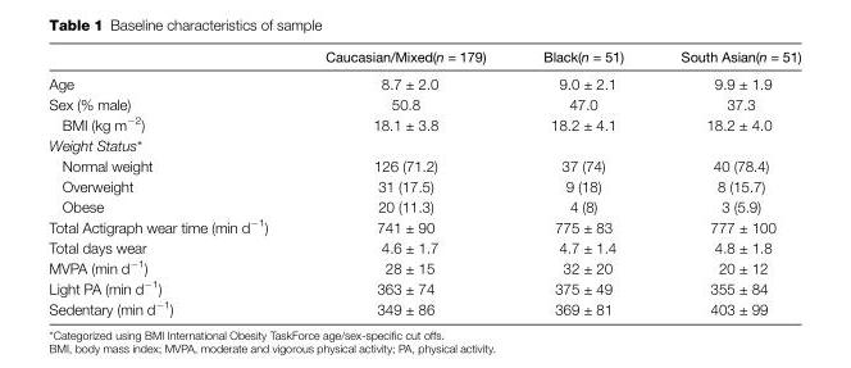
<table><thead><tr><td></td><td>Caucasian/Mixed(n = 179)</td><td>Black(n = 51)</td><td>South Asian(n = 51)</td></tr></thead><tbody><tr><td>Age</td><td>8.7 ± 2.0</td><td>9.0 ± 2.1</td><td>9.9 ± 1.9</td></tr><tr><td>Sex (% male)</td><td>50.8</td><td>47.0</td><td>37.3</td></tr><tr><td>BMI (kg m<sup>−2</sup>)</td><td>18.1 ± 3.8</td><td>18.2 ± 4.1</td><td>18.2 ± 4.0</td></tr><tr><td colspan="4">Weight Status*</td></tr><tr><td>Normal weight</td><td>126 (71.2)</td><td>37 (74)</td><td>40 (78.4)</td></tr><tr><td>Overweight</td><td>31 (17.5)</td><td>9 (18)</td><td>8 (15.7)</td></tr><tr><td>Obese</td><td>20 (11.3)</td><td>4 (8)</td><td>3 (5.9)</td></tr><tr><td>Total Actigraph wear time (min d<sup>−1</sup>)</td><td>741 ± 90</td><td>775 ± 83</td><td>777 ± 100</td></tr><tr><td>Total days wear</td><td>4.6 ± 1.7</td><td>4.7 ± 1.4</td><td>4.8 ± 1.8</td></tr><tr><td>MVPA (min d<sup>−1</sup>)</td><td>28 ± 15</td><td>32 ± 20</td><td>20 ± 12</td></tr><tr><td>Light PA (min d<sup>−1</sup>)</td><td>363 ± 74</td><td>375 ± 49</td><td>355 ± 84</td></tr><tr><td>Sedentary (min d<sup>−1</sup>)</td><td>349 ± 86</td><td>369 ± 81</td><td>403 ± 99</td></tr></tbody></table>